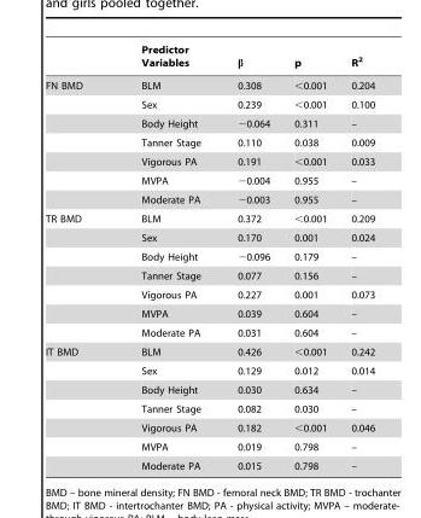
<table><thead><tr><td></td><td>Predictor Variables</td><td>β</td><td>p</td><td>R<sup>2</sup></td></tr></thead><tbody><tr><td rowspan="7">FN BMD</td><td>BLM</td><td>0.308</td><td>&lt;0.001</td><td>0.204</td></tr><tr><td>Sex</td><td>0.239</td><td>&lt;0.001</td><td>0.100</td></tr><tr><td>Body Height</td><td>−0.064</td><td>0.311</td><td>–</td></tr><tr><td>Tanner Stage</td><td>0.110</td><td>0.038</td><td>0.009</td></tr><tr><td>Vigorous PA</td><td>0.191</td><td>&lt;0.001</td><td>0.033</td></tr><tr><td>MVPA</td><td>−0.004</td><td>0.955</td><td>–</td></tr><tr><td>Moderate PA</td><td>−0.003</td><td>0.955</td><td>–</td></tr><tr><td rowspan="7">TR BMD</td><td>BLM</td><td>0.372</td><td>&lt;0.001</td><td>0.209</td></tr><tr><td>Sex</td><td>0.170</td><td>0.001</td><td>0.024</td></tr><tr><td>Body Height</td><td>−0.096</td><td>0.179</td><td>–</td></tr><tr><td>Tanner Stage</td><td>0.077</td><td>0.156</td><td>–</td></tr><tr><td>Vigorous PA</td><td>0.227</td><td>0.001</td><td>0.073</td></tr><tr><td>MVPA</td><td>0.039</td><td>0.604</td><td>–</td></tr><tr><td>Moderate PA</td><td>0.031</td><td>0.604</td><td>–</td></tr><tr><td rowspan="7">IT BMD</td><td>BLM</td><td>0.426</td><td>&lt;0.001</td><td>0.242</td></tr><tr><td>Sex</td><td>0.129</td><td>0.012</td><td>0.014</td></tr><tr><td>Body Height</td><td>0.030</td><td>0.634</td><td>–</td></tr><tr><td>Tanner Stage</td><td>0.082</td><td>0.030</td><td>–</td></tr><tr><td>Vigorous PA</td><td>0.182</td><td>&lt;0.001</td><td>0.046</td></tr><tr><td>MVPA</td><td>0.019</td><td>0.798</td><td>–</td></tr><tr><td>Moderate PA</td><td>0.015</td><td>0.798</td><td>–</td></tr></tbody></table>